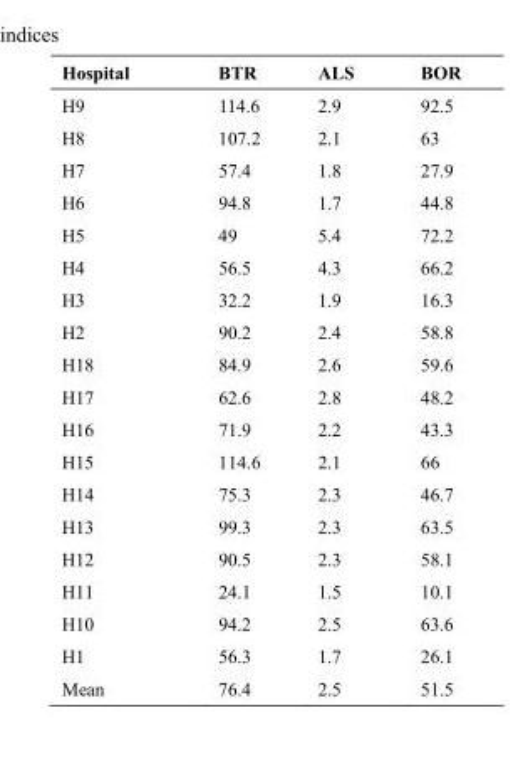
<table><thead><tr><td>Hospital</td><td>BTR</td><td>ALS</td><td>BOR</td></tr></thead><tbody><tr><td>H9</td><td>114.6</td><td>2.9</td><td>92.5</td></tr><tr><td>H8</td><td>107.2</td><td>2.1</td><td>63</td></tr><tr><td>H7</td><td>57.4</td><td>1.8</td><td>27.9</td></tr><tr><td>H6</td><td>94.8</td><td>1.7</td><td>44.8</td></tr><tr><td>H5</td><td>49</td><td>5.4</td><td>72.2</td></tr><tr><td>H4</td><td>56.5</td><td>4.3</td><td>66.2</td></tr><tr><td>H3</td><td>32.2</td><td>1.9</td><td>16.3</td></tr><tr><td>H2</td><td>90.2</td><td>2.4</td><td>58.8</td></tr><tr><td>H18</td><td>84.9</td><td>2.6</td><td>59.6</td></tr><tr><td>H17</td><td>62.6</td><td>2.8</td><td>48.2</td></tr><tr><td>H16</td><td>71.9</td><td>2.2</td><td>43.3</td></tr><tr><td>H15</td><td>114.6</td><td>2.1</td><td>66</td></tr><tr><td>H14</td><td>75.3</td><td>2.3</td><td>46.7</td></tr><tr><td>H13</td><td>99.3</td><td>2.3</td><td>63.5</td></tr><tr><td>H12</td><td>90.5</td><td>2.3</td><td>58.1</td></tr><tr><td>H11</td><td>24.1</td><td>1.5</td><td>10.1</td></tr><tr><td>H10</td><td>94.2</td><td>2.5</td><td>63.6</td></tr><tr><td>H1</td><td>56.3</td><td>1.7</td><td>26.1</td></tr><tr><td>Mean</td><td>76.4</td><td>2.5</td><td>51.5</td></tr></tbody></table>